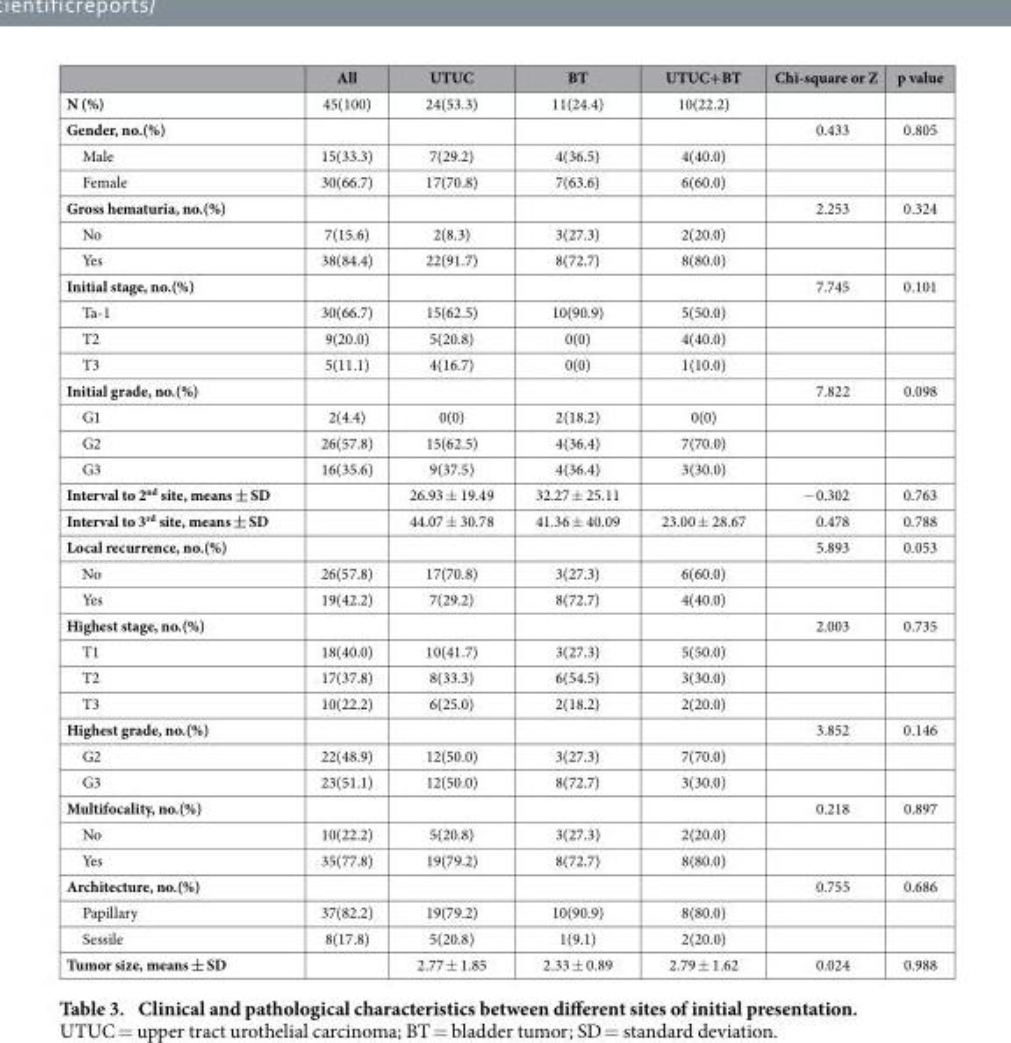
<table><thead><tr><td></td><td>All</td><td>UTUC</td><td>BT</td><td>UTUC+BT</td><td>Chi-square or Z</td><td>p value</td></tr></thead><tbody><tr><td>N (%)</td><td>45(100)</td><td>24(53.3)</td><td>11(24.4)</td><td>10(22.2)</td><td></td><td></td></tr><tr><td>Gender, no.(%)</td><td></td><td></td><td></td><td></td><td>0.433</td><td>0.805</td></tr><tr><td>Male</td><td>15(33.3)</td><td>7(29.2)</td><td>4(36.5)</td><td>4(40.0)</td><td></td><td></td></tr><tr><td>Female</td><td>30(66.7)</td><td>17(70.8)</td><td>7(63.6)</td><td>6(60.0)</td><td></td><td></td></tr><tr><td>Gross hematuria, no.(%)</td><td></td><td></td><td></td><td></td><td>2.253</td><td>0.324</td></tr><tr><td>No</td><td>7(15.6)</td><td>2(8.3)</td><td>3(27.3)</td><td>2(20.0)</td><td></td><td></td></tr><tr><td>Yes</td><td>38(84.4)</td><td>22(91.7)</td><td>8(72.7)</td><td>8(80.0)</td><td></td><td></td></tr><tr><td>Initial stage, no.(%)</td><td></td><td></td><td></td><td></td><td>7.745</td><td>0.101</td></tr><tr><td>Ta-1</td><td>30(66.7)</td><td>15(62.5)</td><td>10(90.9)</td><td>5(50.0)</td><td></td><td></td></tr><tr><td>T2</td><td>9(20.0)</td><td>5(20.8)</td><td>0(0)</td><td>4(40.0)</td><td></td><td></td></tr><tr><td>T3</td><td>5(11.1)</td><td>4(16.7)</td><td>0(0)</td><td>1(10.0)</td><td></td><td></td></tr><tr><td>Initial grade, no.(%)</td><td></td><td></td><td></td><td></td><td>7.822</td><td>0.098</td></tr><tr><td>G1</td><td>2(4.4)</td><td>0(0)</td><td>2(18.2)</td><td>0(0)</td><td></td><td></td></tr><tr><td>G2</td><td>26(57.8)</td><td>15(62.5)</td><td>4(36.4)</td><td>7(70.0)</td><td></td><td></td></tr><tr><td>G3</td><td>16(35.6)</td><td>9(37.5)</td><td>4(36.4)</td><td>3(30.0)</td><td></td><td></td></tr><tr><td>Interval to 2<sup>nd</sup> site, means ± SD</td><td></td><td>26.93 ± 19.49</td><td>32.27 ± 25.11</td><td></td><td>− 0.302</td><td>0.763</td></tr><tr><td>Interval to 3<sup>rd</sup> site, means ± SD</td><td></td><td>44.07 ± 30.78</td><td>41.36 ± 40.09</td><td>23.00 ± 28.67</td><td>0.478</td><td>0.788</td></tr><tr><td>Local recurrence, no.(%)</td><td></td><td></td><td></td><td></td><td>5.893</td><td>0.053</td></tr><tr><td>No</td><td>26(57.8)</td><td>17(70.8)</td><td>3(27.3)</td><td>6(60.0)</td><td></td><td></td></tr><tr><td>Yes</td><td>19(42.2)</td><td>7(29.2)</td><td>8(72.7)</td><td>4(40.0)</td><td></td><td></td></tr><tr><td>Highest stage, no.(%)</td><td></td><td></td><td></td><td></td><td>2.003</td><td>0.735</td></tr><tr><td>T1</td><td>18(40.0)</td><td>10(41.7)</td><td>3(27.3)</td><td>5(50.0)</td><td></td><td></td></tr><tr><td>T2</td><td>17(37.8)</td><td>8(33.3)</td><td>6(54.5)</td><td>3(30.0)</td><td></td><td></td></tr><tr><td>T3</td><td>10(22.2)</td><td>6(25.0)</td><td>2(18.2)</td><td>2(20.0)</td><td></td><td></td></tr><tr><td>Highest grade, no.(%)</td><td></td><td></td><td></td><td></td><td>3.852</td><td>0.146</td></tr><tr><td>G2</td><td>22(48.9)</td><td>12(50.0)</td><td>3(27.3)</td><td>7(70.0)</td><td></td><td></td></tr><tr><td>G3</td><td>23(51.1)</td><td>12(50.0)</td><td>8(72.7)</td><td>3(30.0)</td><td></td><td></td></tr><tr><td>Multifocality, no.(%)</td><td></td><td></td><td></td><td></td><td>0.218</td><td>0.897</td></tr><tr><td>No</td><td>10(22.2)</td><td>5(20.8)</td><td>3(27.3)</td><td>2(20.0)</td><td></td><td></td></tr><tr><td>Yes</td><td>35(77.8)</td><td>19(79.2)</td><td>8(72.7)</td><td>8(80.0)</td><td></td><td></td></tr><tr><td>Architecture, no.(%)</td><td></td><td></td><td></td><td></td><td>0.755</td><td>0.686</td></tr><tr><td>Papillary</td><td>37(82.2)</td><td>19(79.2)</td><td>10(90.9)</td><td>8(80.0)</td><td></td><td></td></tr><tr><td>Sessile</td><td>8(17.8)</td><td>5(20.8)</td><td>1(9.1)</td><td>2(20.0)</td><td></td><td></td></tr><tr><td>Tumor size, means ± SD</td><td></td><td>2.77 ± 1.85</td><td>2.33 ± 0.89</td><td>2.79 ± 1.62</td><td>0.024</td><td>0.988</td></tr></tbody></table>